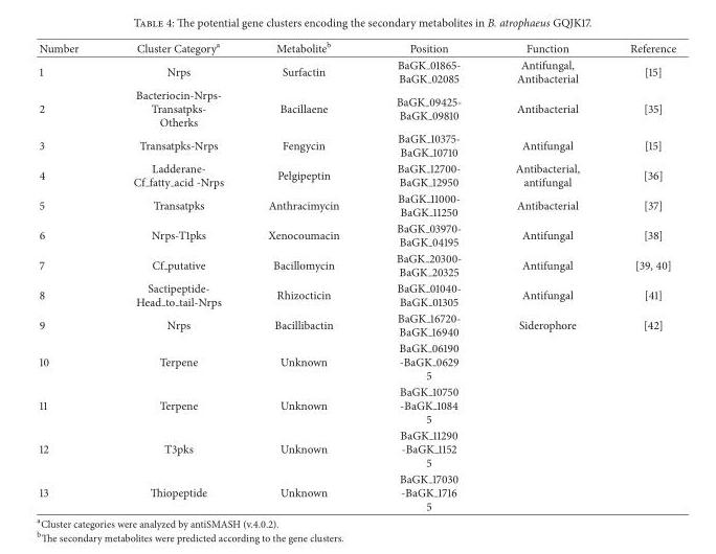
<table><thead><tr><td>Number</td><td>Cluster Category<sup>a</sup></td><td>Metabolite<sup>b</sup></td><td>Position</td><td>Function</td><td>Reference</td></tr></thead><tbody><tr><td>1</td><td>Nrps</td><td>Surfactin</td><td>BaGK <sub>01865- BaGK</sub> 02085</td><td>Antifungal, Antibacterial</td><td>[15]</td></tr><tr><td>2</td><td>Bacteriocin-Nrps- Transatpks- Otherks</td><td>Bacillaene</td><td>BaGK <sub>09425- BaGK</sub> 09810</td><td>Antibacterial</td><td>[35]</td></tr><tr><td>3</td><td>Transatpks-Nrps</td><td>Fengycin</td><td>BaGK <sub>10375- BaGK</sub> 10710</td><td>Antifungal</td><td>[15]</td></tr><tr><td>4</td><td>Ladderane- Cf <sub>fatty</sub> acid -Nrps</td><td>Pelgipeptin</td><td>BaGK <sub>12700- BaGK</sub> 12950</td><td>Antibacterial, antifungal</td><td>[36]</td></tr><tr><td>5</td><td>Transatpks</td><td>Anthracimycin</td><td>BaGK <sub>11000- BaGK</sub> 11250</td><td>Antibacterial</td><td>[37]</td></tr><tr><td>6</td><td>Nrps-T1pks</td><td>Xenocoumacin</td><td>BaGK <sub>03970- BaGK</sub> 04195</td><td>Antifungal</td><td>[38]</td></tr><tr><td>7</td><td>Cf putative</td><td>Bacillomycin</td><td>BaGK <sub>20300- BaGK</sub> 20325</td><td>Antifungal</td><td>[39, 40]</td></tr><tr><td>8</td><td>Sactipeptide- Head <sub>to</sub> tail-Nrps</td><td>Rhizocticin</td><td>BaGK <sub>01040- BaGK</sub> 01305</td><td>Antifungal</td><td>[41]</td></tr><tr><td>9</td><td>Nrps</td><td>Bacillibactin</td><td>BaGK <sub>16720- BaGK</sub> 16940</td><td>Siderophore</td><td>[42]</td></tr><tr><td>10</td><td>Terpene</td><td>Unknown</td><td>BaGK <sub>06190 -BaGK</sub> 0629 5</td><td></td><td></td></tr><tr><td>11</td><td>Terpene</td><td>Unknown</td><td>BaGK <sub>10750 -BaGK</sub> 1084 5</td><td></td><td></td></tr><tr><td>12</td><td>T3pks</td><td>Unknown</td><td>BaGK <sub>11290 -BaGK</sub> 1152 5</td><td></td><td></td></tr><tr><td>13</td><td>Thiopeptide</td><td>Unknown</td><td>BaGK <sub>17030 -BaGK</sub> 1716 5</td><td></td><td></td></tr></tbody></table>